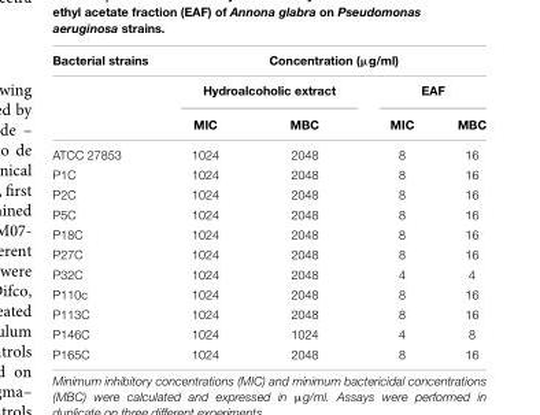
<table><thead><tr><td rowspan="3">Bacterial strains</td><td colspan="4">Concentration (µg/ml)</td></tr><tr><td colspan="2">Hydroalcoholic extract</td><td colspan="2">EAF</td></tr><tr><td>MIC</td><td>MBC</td><td>MIC</td><td>MBC</td></tr></thead><tbody><tr><td>ATCC 27853</td><td>1024</td><td>2048</td><td>8</td><td>16</td></tr><tr><td>P1C</td><td>1024</td><td>2048</td><td>8</td><td>16</td></tr><tr><td>P2C</td><td>1024</td><td>2048</td><td>8</td><td>16</td></tr><tr><td>P5C</td><td>1024</td><td>2048</td><td>8</td><td>16</td></tr><tr><td>P18C</td><td>1024</td><td>2048</td><td>8</td><td>16</td></tr><tr><td>P27C</td><td>1024</td><td>2048</td><td>8</td><td>16</td></tr><tr><td>P32C</td><td>1024</td><td>2048</td><td>4</td><td>4</td></tr><tr><td>P110c</td><td>1024</td><td>2048</td><td>8</td><td>16</td></tr><tr><td>P113C</td><td>1024</td><td>2048</td><td>8</td><td>16</td></tr><tr><td>P146C</td><td>1024</td><td>1024</td><td>4</td><td>8</td></tr><tr><td>P165C</td><td>1024</td><td>2048</td><td>8</td><td>16</td></tr></tbody></table>